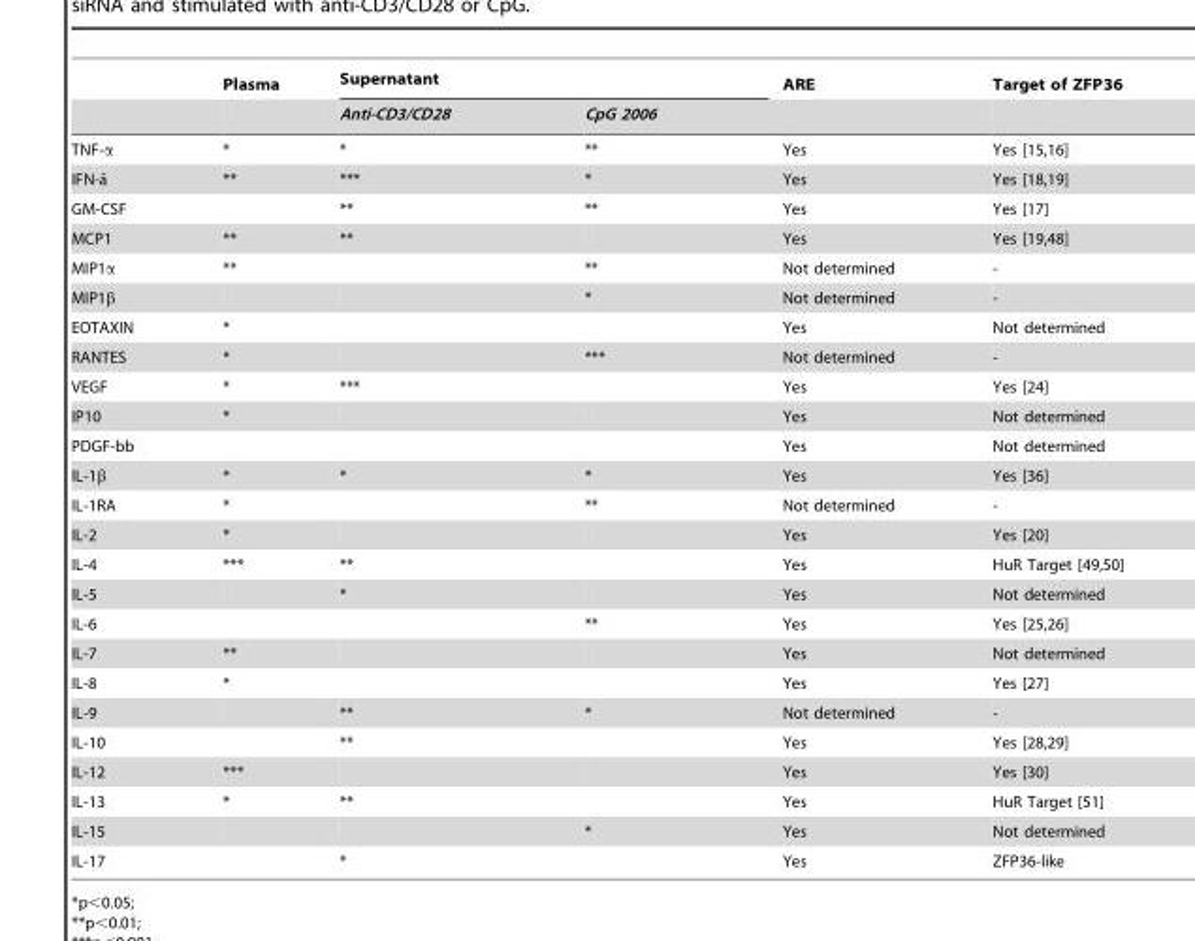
<table><thead><tr><td rowspan="2"></td><td rowspan="2">Plasma</td><td colspan="2">Supernatant</td><td rowspan="2">ARE</td><td rowspan="2">Target of ZFP36</td></tr><tr><td>Anti-CD3/CD28</td><td>CpG 2006</td></tr></thead><tbody><tr><td>TNF-α</td><td>*</td><td>*</td><td>**</td><td>Yes</td><td>Yes [15,16]</td></tr><tr><td>IFN-a˜</td><td>**</td><td>***</td><td>*</td><td>Yes</td><td>Yes [18,19]</td></tr><tr><td>GM-CSF</td><td></td><td>**</td><td>**</td><td>Yes</td><td>Yes [17]</td></tr><tr><td>MCP1</td><td>**</td><td>**</td><td></td><td>Yes</td><td>Yes [19,48]</td></tr><tr><td>MIP1α</td><td>**</td><td></td><td>**</td><td>Not determined</td><td>-</td></tr><tr><td>MIP1β</td><td></td><td></td><td>*</td><td>Not determined</td><td>-</td></tr><tr><td>EOTAXIN</td><td>*</td><td></td><td></td><td>Yes</td><td>Not determined</td></tr><tr><td>RANTES</td><td>*</td><td></td><td>***</td><td>Not determined</td><td>-</td></tr><tr><td>VEGF</td><td>*</td><td>***</td><td></td><td>Yes</td><td>Yes [24]</td></tr><tr><td>IP10</td><td>*</td><td></td><td></td><td>Yes</td><td>Not determined</td></tr><tr><td>PDGF-bb</td><td></td><td></td><td></td><td>Yes</td><td>Not determined</td></tr><tr><td>IL-1β</td><td>*</td><td>*</td><td>*</td><td>Yes</td><td>Yes [36]</td></tr><tr><td>IL-1RA</td><td>*</td><td></td><td>**</td><td>Not determined</td><td>-</td></tr><tr><td>IL-2</td><td>*</td><td></td><td></td><td>Yes</td><td>Yes [20]</td></tr><tr><td>IL-4</td><td>***</td><td>**</td><td></td><td>Yes</td><td>HuR Target [49,50]</td></tr><tr><td>IL-5</td><td></td><td>*</td><td></td><td>Yes</td><td>Not determined</td></tr><tr><td>IL-6</td><td></td><td></td><td>**</td><td>Yes</td><td>Yes [25,26]</td></tr><tr><td>IL-7</td><td>**</td><td></td><td></td><td>Yes</td><td>Not determined</td></tr><tr><td>IL-8</td><td>*</td><td></td><td></td><td>Yes</td><td>Yes [27]</td></tr><tr><td>IL-9</td><td></td><td>**</td><td>*</td><td>Not determined</td><td>-</td></tr><tr><td>IL-10</td><td></td><td>**</td><td></td><td>Yes</td><td>Yes [28,29]</td></tr><tr><td>IL-12</td><td>***</td><td></td><td></td><td>Yes</td><td>Yes [30]</td></tr><tr><td>IL-13</td><td>*</td><td>**</td><td></td><td>Yes</td><td>HuR Target [51]</td></tr><tr><td>IL-15</td><td></td><td></td><td>*</td><td>Yes</td><td>Not determined</td></tr><tr><td>IL-17</td><td></td><td>*</td><td></td><td>Yes</td><td>ZFP36-like</td></tr></tbody></table>